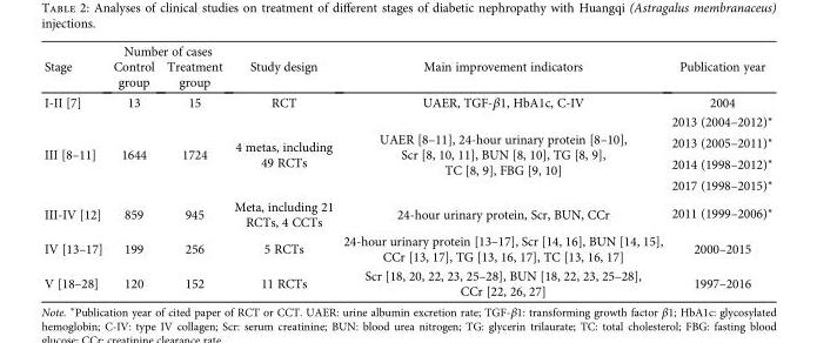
<table><thead><tr><td rowspan="2">Stage</td><td colspan="2">Number of cases</td><td rowspan="2">Study design</td><td rowspan="2">Main improvement indicators</td><td rowspan="2">Publication year</td></tr><tr><td>Control group</td><td>Treatment group</td></tr></thead><tbody><tr><td>I-II [7]</td><td>13</td><td>15</td><td>RCT</td><td>UAER, TGF-β1, HbA1c, C-IV</td><td>2004</td></tr><tr><td rowspan="4">III [8–11]</td><td rowspan="4">1644</td><td rowspan="4">1724</td><td rowspan="4">4 metas, including 49 RCTs</td><td rowspan="4">UAER [8–11], 24-hour urinary protein [8–10], Scr [8, 10, 11], BUN [8, 10], TG [8, 9], TC [8, 9], FBG [9, 10]</td><td>2013 (2004–2012)∗</td></tr><tr><td>2013 (2005–2011)∗</td></tr><tr><td>2014 (1998–2012)∗</td></tr><tr><td>2017 (1998–2015)∗</td></tr><tr><td>III-IV [12]</td><td>859</td><td>945</td><td>Meta, including 21 RCTs, 4 CCTs</td><td>24-hour urinary protein, Scr, BUN, CCr</td><td>2011 (1999–2006)∗</td></tr><tr><td>IV [13–17]</td><td>199</td><td>256</td><td>5 RCTs</td><td>24-hour urinary protein [13–17], Scr [14, 16], BUN [14, 15], CCr [13, 17], TG [13, 16, 17], TC [13, 16, 17]</td><td>2000–2015</td></tr><tr><td>V [18–28]</td><td>120</td><td>152</td><td>11 RCTs</td><td>Scr [18, 20, 22, 23, 25–28], BUN [18, 22, 23, 25–28], CCr [22, 26, 27]</td><td>1997–2016</td></tr></tbody></table>